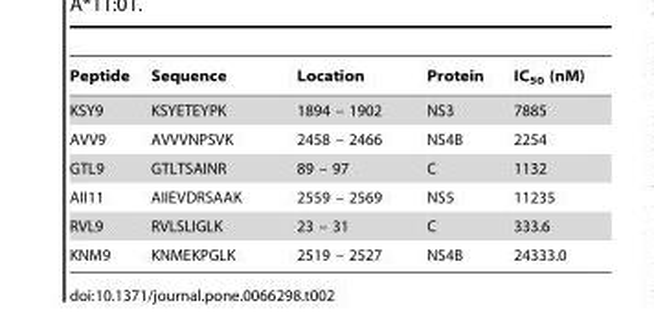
<table><thead><tr><td>Peptide</td><td>Sequence</td><td>Location</td><td>Protein</td><td>IC<sub>50</sub> (nM)</td></tr></thead><tbody><tr><td>KSY9</td><td>KSYETEYPK</td><td>1894 – 1902</td><td>NS3</td><td>7885</td></tr><tr><td>AVV9</td><td>AVVVNPSVK</td><td>2458 – 2466</td><td>NS4B</td><td>2254</td></tr><tr><td>GTL9</td><td>GTLTSAINR</td><td>89 – 97</td><td>C</td><td>1132</td></tr><tr><td>AII11</td><td>AIIEVDRSAAK</td><td>2559 – 2569</td><td>NS5</td><td>11235</td></tr><tr><td>RVL9</td><td>RVLSLIGLK</td><td>23 – 31</td><td>C</td><td>333.6</td></tr><tr><td>KNM9</td><td>KNMEKPGLK</td><td>2519 – 2527</td><td>NS4B</td><td>24333.0</td></tr></tbody></table>